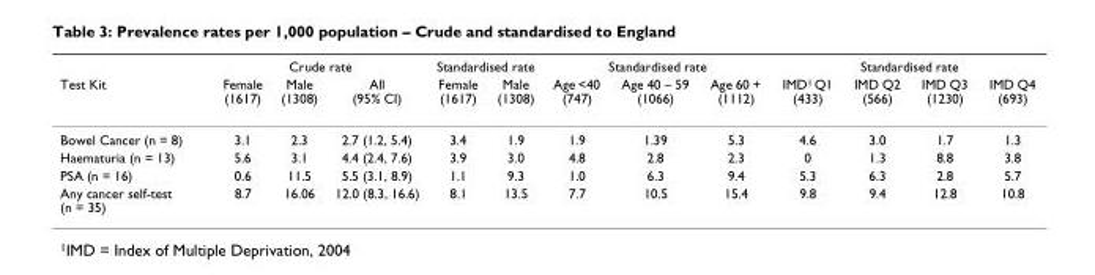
<table><thead><tr><td rowspan="2">Test Kit</td><td colspan="3">Crude rate</td><td colspan="2">Standardised rate</td><td colspan="3">Standardised rate</td><td colspan="4">Standardised rate</td></tr><tr><td>Female (1617)</td><td>Male (1308)</td><td>All (95% CI)</td><td>Female (1617)</td><td>Male (1308)</td><td>Age &lt;40 (747)</td><td>Age 40 – 59 (1066)</td><td>Age 60 + (1112)</td><td>IMD<sup>1</sup> Q1 (433)</td><td>IMD Q2 (566)</td><td>IMD Q3 (1230)</td><td>IMD Q4 (693)</td></tr></thead><tbody><tr><td>Bowel Cancer (n = 8)</td><td>3.1</td><td>2.3</td><td>2.7 (1.2, 5.4)</td><td>3.4</td><td>1.9</td><td>1.9</td><td>1.39</td><td>5.3</td><td>4.6</td><td>3.0</td><td>1.7</td><td>1.3</td></tr><tr><td>Haematuria (n = 13)</td><td>5.6</td><td>3.1</td><td>4.4 (2.4, 7.6)</td><td>3.9</td><td>3.0</td><td>4.8</td><td>2.8</td><td>2.3</td><td>0</td><td>1.3</td><td>8.8</td><td>3.8</td></tr><tr><td>PSA (n = 16)</td><td>0.6</td><td>11.5</td><td>5.5 (3.1, 8.9)</td><td>1.1</td><td>9.3</td><td>1.0</td><td>6.3</td><td>9.4</td><td>5.3</td><td>6.3</td><td>2.8</td><td>5.7</td></tr><tr><td>Any cancer self-test (n = 35)</td><td>8.7</td><td>16.06</td><td>12.0 (8.3, 16.6)</td><td>8.1</td><td>13.5</td><td>7.7</td><td>10.5</td><td>15.4</td><td>9.8</td><td>9.4</td><td>12.8</td><td>10.8</td></tr></tbody></table>